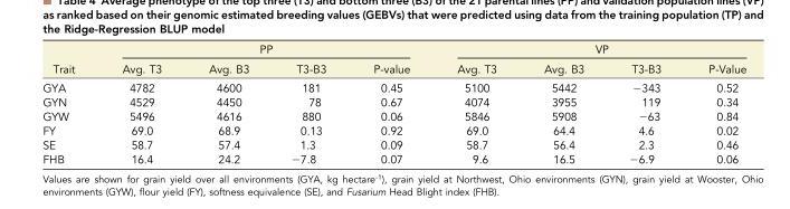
<table><thead><tr><td rowspan="2">Trait</td><td colspan="4">PP</td><td colspan="4">VP</td></tr><tr><td>Avg. T3</td><td>Avg. B3</td><td>T3-B3</td><td>P-value</td><td>Avg. T3</td><td>Avg. B3</td><td>T3-B3</td><td>P-Value</td></tr></thead><tbody><tr><td>GYA</td><td>4782</td><td>4600</td><td>181</td><td>0.45</td><td>5100</td><td>5442</td><td>−343</td><td>0.52</td></tr><tr><td>GYN</td><td>4529</td><td>4450</td><td>78</td><td>0.67</td><td>4074</td><td>3955</td><td>119</td><td>0.34</td></tr><tr><td>GYW</td><td>5496</td><td>4616</td><td>880</td><td>0.06</td><td>5846</td><td>5908</td><td>−63</td><td>0.84</td></tr><tr><td>FY</td><td>69.0</td><td>68.9</td><td>0.13</td><td>0.92</td><td>69.0</td><td>64.4</td><td>4.6</td><td>0.02</td></tr><tr><td>SE</td><td>58.7</td><td>57.4</td><td>1.3</td><td>0.09</td><td>58.7</td><td>56.4</td><td>2.3</td><td>0.46</td></tr><tr><td>FHB</td><td>16.4</td><td>24.2</td><td>−7.8</td><td>0.07</td><td>9.6</td><td>16.5</td><td>−6.9</td><td>0.06</td></tr></tbody></table>